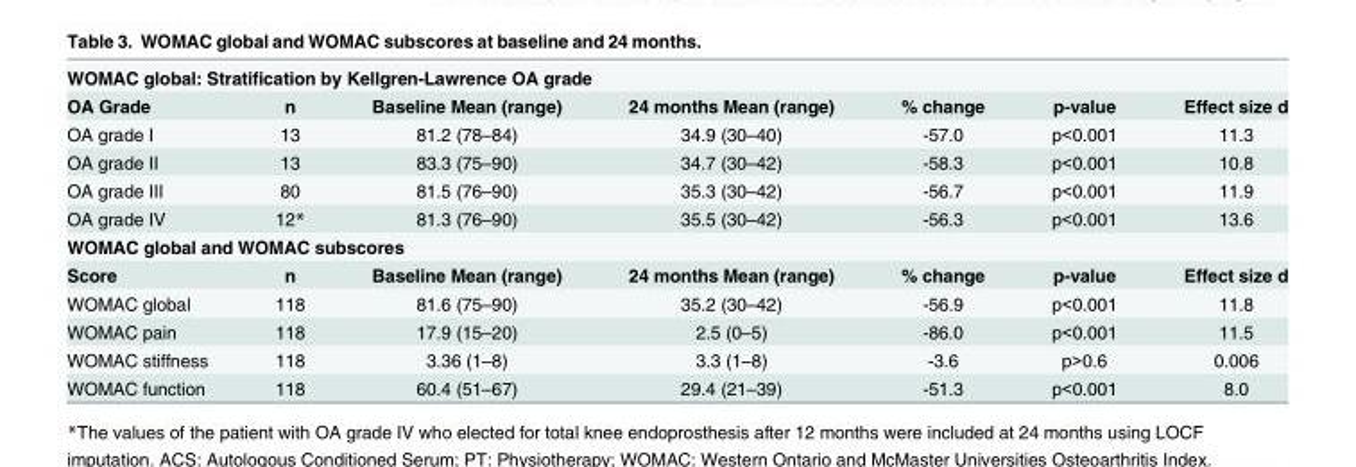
<table><tbody><tr><td colspan="7">WOMAC global: Stratification by Kellgren-Lawrence OA grade</td></tr><tr><td>OA Grade</td><td>n</td><td>Baseline Mean (range)</td><td>24 months Mean (range)</td><td>% change</td><td>p-value</td><td>Effect size d</td></tr><tr><td>OA grade I</td><td>13</td><td>81.2 (78–84)</td><td>34.9 (30–40)</td><td>-57.0</td><td>p&lt;0.001</td><td>11.3</td></tr><tr><td>OA grade II</td><td>13</td><td>83.3 (75–90)</td><td>34.7 (30–42)</td><td>-58.3</td><td>p&lt;0.001</td><td>10.8</td></tr><tr><td>OA grade III</td><td>80</td><td>81.5 (76–90)</td><td>35.3 (30–42)</td><td>-56.7</td><td>p&lt;0.001</td><td>11.9</td></tr><tr><td>OA grade IV</td><td>12*</td><td>81.3 (76–90)</td><td>35.5 (30–42)</td><td>-56.3</td><td>p&lt;0.001</td><td>13.6</td></tr><tr><td colspan="7">WOMAC global and WOMAC subscores</td></tr><tr><td>Score</td><td>n</td><td>Baseline Mean (range)</td><td>24 months Mean (range)</td><td>% change</td><td>p-value</td><td>Effect size d</td></tr><tr><td>WOMAC global</td><td>118</td><td>81.6 (75–90)</td><td>35.2 (30–42)</td><td>-56.9</td><td>p&lt;0.001</td><td>11.8</td></tr><tr><td>WOMAC pain</td><td>118</td><td>17.9 (15–20)</td><td>2.5 (0–5)</td><td>-86.0</td><td>p&lt;0.001</td><td>11.5</td></tr><tr><td>WOMAC stiffness</td><td>118</td><td>3.36 (1–8)</td><td>3.3 (1–8)</td><td>-3.6</td><td>p&gt;0.6</td><td>0.006</td></tr><tr><td>WOMAC function</td><td>118</td><td>60.4 (51–67)</td><td>29.4 (21–39)</td><td>-51.3</td><td>p&lt;0.001</td><td>8.0</td></tr></tbody></table>